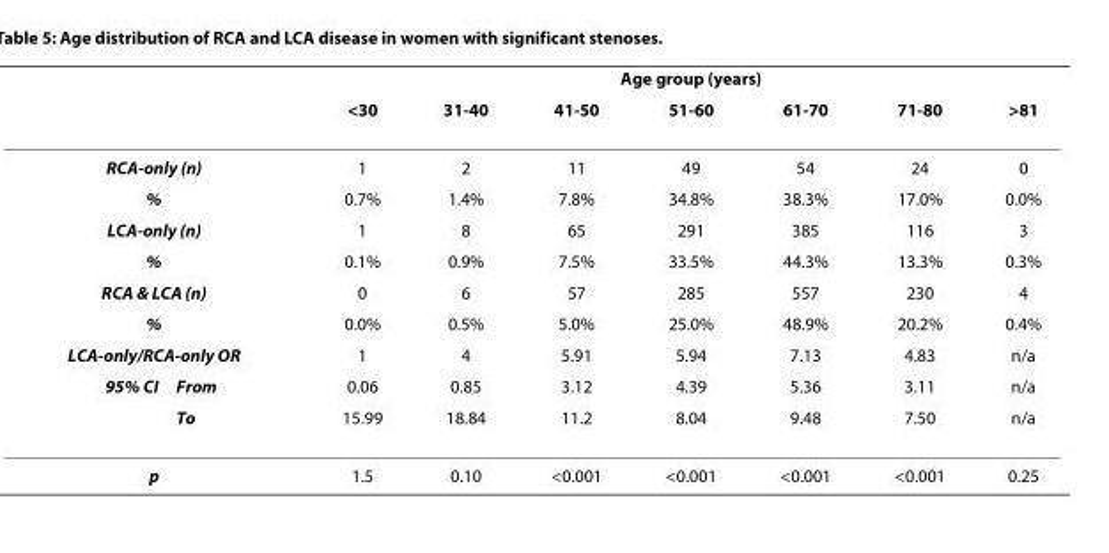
<table><thead><tr><td rowspan="2"></td><td rowspan="2"></td><td colspan="7">Age group (years)</td></tr><tr><td>&lt;30</td><td>31-40</td><td>41-50</td><td>51-60</td><td>61-70</td><td>71-80</td><td>&gt;81</td></tr></thead><tbody><tr><td colspan="2">RCA-only (n)</td><td>1</td><td>2</td><td>11</td><td>49</td><td>54</td><td>24</td><td>0</td></tr><tr><td colspan="2">%</td><td>0.7%</td><td>1.4%</td><td>7.8%</td><td>34.8%</td><td>38.3%</td><td>17.0%</td><td>0.0%</td></tr><tr><td colspan="2">LCA-only (n)</td><td>1</td><td>8</td><td>65</td><td>291</td><td>385</td><td>116</td><td>3</td></tr><tr><td colspan="2">%</td><td>0.1%</td><td>0.9%</td><td>7.5%</td><td>33.5%</td><td>44.3%</td><td>13.3%</td><td>0.3%</td></tr><tr><td colspan="2">RCA &amp; LCA (n)</td><td>0</td><td>6</td><td>57</td><td>285</td><td>557</td><td>230</td><td>4</td></tr><tr><td colspan="2">%</td><td>0.0%</td><td>0.5%</td><td>5.0%</td><td>25.0%</td><td>48.9%</td><td>20.2%</td><td>0.4%</td></tr><tr><td colspan="2">LCA-only/RCA-only OR</td><td>1</td><td>4</td><td>5.91</td><td>5.94</td><td>7.13</td><td>4.83</td><td>n/a</td></tr><tr><td rowspan="2">95% CI</td><td>From</td><td>0.06</td><td>0.85</td><td>3.12</td><td>4.39</td><td>5.36</td><td>3.11</td><td>n/a</td></tr><tr><td>To</td><td>15.99</td><td>18.84</td><td>11.2</td><td>8.04</td><td>9.48</td><td>7.50</td><td>n/a</td></tr><tr><td colspan="2">p</td><td>1.5</td><td>0.10</td><td>&lt;0.001</td><td>&lt;0.001</td><td>&lt;0.001</td><td>&lt;0.001</td><td>0.25</td></tr></tbody></table>